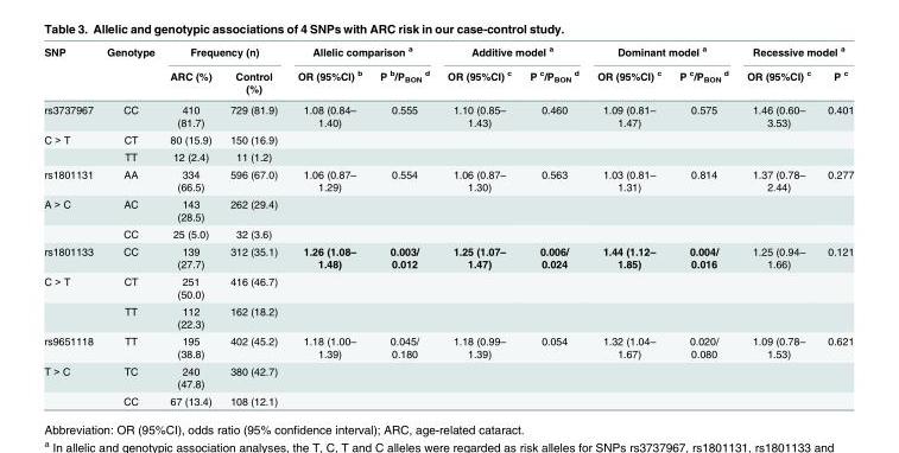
<table><thead><tr><td rowspan="2">SNP</td><td rowspan="2">Genotype</td><td colspan="2">Frequency (n)</td><td colspan="2">Allelic comparison <sup>a</sup></td><td colspan="2">Additive model <sup>a</sup></td><td colspan="2">Dominant model <sup>a</sup></td><td colspan="2">Recessive model <sup>a</sup></td></tr><tr><td>ARC (%)</td><td>Control (%)</td><td>OR (95%CI) <sup>b</sup></td><td>P <sup>b</sup>/P<sub>BON</sub> <sup>d</sup></td><td>OR (95%CI) <sup>c</sup></td><td>P <sup>c</sup>/P<sub>BON</sub> <sup>d</sup></td><td>OR (95%CI) <sup>c</sup></td><td>P <sup>c</sup>/P<sub>BON</sub> <sup>d</sup></td><td>OR (95%CI) <sup>c</sup></td><td>P <sup>c</sup></td></tr></thead><tbody><tr><td>rs3737967</td><td>CC</td><td>410 (81.7)</td><td>729 (81.9)</td><td>1.08 (0.84– 1.40)</td><td>0.555</td><td>1.10 (0.85– 1.43)</td><td>0.460</td><td>1.09 (0.81– 1.47)</td><td>0.575</td><td>1.46 (0.60– 3.53)</td><td>0.401</td></tr><tr><td rowspan="2">C &gt; T</td><td>CT</td><td>80 (15.9)</td><td>150 (16.9)</td><td></td><td></td><td></td><td></td><td></td><td></td><td></td><td></td></tr><tr><td>TT</td><td>12 (2.4)</td><td>11 (1.2)</td><td></td><td></td><td></td><td></td><td></td><td></td><td></td><td></td></tr><tr><td>rs1801131</td><td>AA</td><td>334 (66.5)</td><td>596 (67.0)</td><td>1.06 (0.87– 1.29)</td><td>0.554</td><td>1.06 (0.87– 1.30)</td><td>0.563</td><td>1.03 (0.81– 1.31)</td><td>0.814</td><td>1.37 (0.78– 2.44)</td><td>0.277</td></tr><tr><td rowspan="2">A &gt; C</td><td>AC</td><td>143 (28.5)</td><td>262 (29.4)</td><td></td><td></td><td></td><td></td><td></td><td></td><td></td><td></td></tr><tr><td>CC</td><td>25 (5.0)</td><td>32 (3.6)</td><td></td><td></td><td></td><td></td><td></td><td></td><td></td><td></td></tr><tr><td>rs1801133</td><td>CC</td><td>139 (27.7)</td><td>312 (35.1)</td><td>1.26 (1.08– 1.48)</td><td>0.003/ 0.012</td><td>1.25 (1.07– 1.47)</td><td>0.006/ 0.024</td><td>1.44 (1.12– 1.85)</td><td>0.004/ 0.016</td><td>1.25 (0.94– 1.66)</td><td>0.121</td></tr><tr><td rowspan="2">C &gt; T</td><td>CT</td><td>251 (50.0)</td><td>416 (46.7)</td><td></td><td></td><td></td><td></td><td></td><td></td><td></td><td></td></tr><tr><td>TT</td><td>112 (22.3)</td><td>162 (18.2)</td><td></td><td></td><td></td><td></td><td></td><td></td><td></td><td></td></tr><tr><td>rs9651118</td><td>TT</td><td>195 (38.8)</td><td>402 (45.2)</td><td>1.18 (1.00– 1.39)</td><td>0.045/ 0.180</td><td>1.18 (0.99– 1.39)</td><td>0.054</td><td>1.32 (1.04– 1.67)</td><td>0.020/ 0.080</td><td>1.09 (0.78– 1.53)</td><td>0.621</td></tr><tr><td rowspan="2">T &gt; C</td><td>TC</td><td>240 (47.8)</td><td>380 (42.7)</td><td></td><td></td><td></td><td></td><td></td><td></td><td></td><td></td></tr><tr><td>CC</td><td>67 (13.4)</td><td>108 (12.1)</td><td></td><td></td><td></td><td></td><td></td><td></td><td></td><td></td></tr></tbody></table>